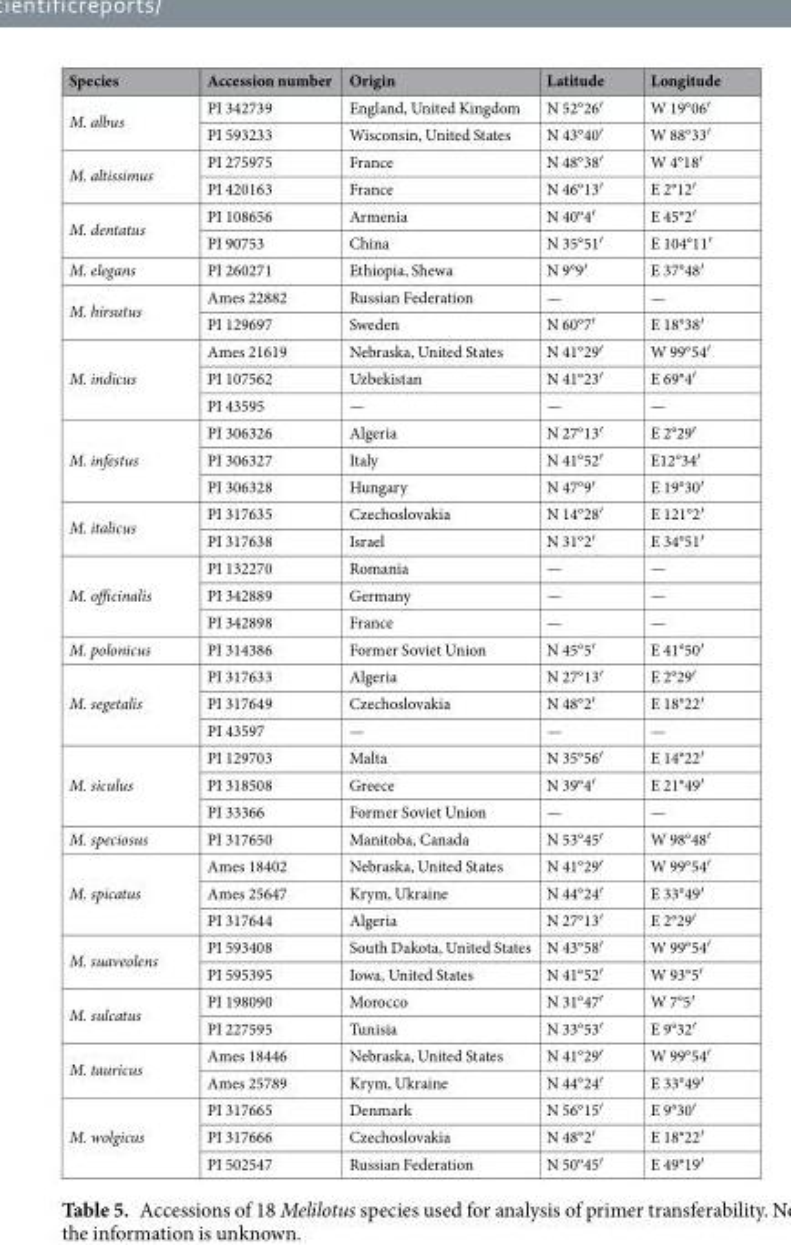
<table><thead><tr><td>Species</td><td>Accession number</td><td>Origin</td><td>Latitude</td><td>Longitude</td></tr></thead><tbody><tr><td rowspan="2">M. albus</td><td>PI 342739</td><td>England, United Kingdom</td><td>N 52°26′</td><td>W 19°06′</td></tr><tr><td>PI 593233</td><td>Wisconsin, United States</td><td>N 43°40′</td><td>W 88°33′</td></tr><tr><td rowspan="2">M. altissimus</td><td>PI 275975</td><td>France</td><td>N 48°38′</td><td>W 4°18′</td></tr><tr><td>PI 420163</td><td>France</td><td>N 46°13′</td><td>E 2°12′</td></tr><tr><td rowspan="2">M. dentatus</td><td>PI 108656</td><td>Armenia</td><td>N 40°4′</td><td>E 45°2′</td></tr><tr><td>PI 90753</td><td>China</td><td>N 35°51′</td><td>E 104°11′</td></tr><tr><td>M. elegans</td><td>PI 260271</td><td>Ethiopia, Shewa</td><td>N 9°9′</td><td>E 37°48′</td></tr><tr><td rowspan="2">M. hirsutus</td><td>Ames 22882</td><td>Russian Federation</td><td>—</td><td>—</td></tr><tr><td>PI 129697</td><td>Sweden</td><td>N 60°7′</td><td>E 18°38′</td></tr><tr><td rowspan="3">M. indicus</td><td>Ames 21619</td><td>Nebraska, United States</td><td>N 41°29′</td><td>W 99°54′</td></tr><tr><td>PI 107562</td><td>Uzbekistan</td><td>N 41°23′</td><td>E 69°4′</td></tr><tr><td>PI 43595</td><td>—</td><td>—</td><td>—</td></tr><tr><td rowspan="3">M. infestus</td><td>PI 306326</td><td>Algeria</td><td>N 27°13′</td><td>E 2°29′</td></tr><tr><td>PI 306327</td><td>Italy</td><td>N 41°52′</td><td>E12°34′</td></tr><tr><td>PI 306328</td><td>Hungary</td><td>N 47°9′</td><td>E 19°30′</td></tr><tr><td rowspan="2">M. italicus</td><td>PI 317635</td><td>Czechoslovakia</td><td>N 14°28′</td><td>E 121°2′</td></tr><tr><td>PI 317638</td><td>Israel</td><td>N 31°2′</td><td>E 34°51′</td></tr><tr><td rowspan="3">M. officinalis</td><td>PI 132270</td><td>Romania</td><td>—</td><td>—</td></tr><tr><td>PI 342889</td><td>Germany</td><td>—</td><td>—</td></tr><tr><td>PI 342898</td><td>France</td><td>—</td><td>—</td></tr><tr><td>M. polonicus</td><td>PI 314386</td><td>Former Soviet Union</td><td>N 45°5′</td><td>E 41°50′</td></tr><tr><td rowspan="3">M. segetalis</td><td>PI 317633</td><td>Algeria</td><td>N 27°13′</td><td>E 2°29′</td></tr><tr><td>PI 317649</td><td>Czechoslovakia</td><td>N 48°2′</td><td>E 18°22′</td></tr><tr><td>PI 43597</td><td>—</td><td>—</td><td>—</td></tr><tr><td rowspan="3">M. siculus</td><td>PI 129703</td><td>Malta</td><td>N 35°56′</td><td>E 14°22′</td></tr><tr><td>PI 318508</td><td>Greece</td><td>N 39°4′</td><td>E 21°49′</td></tr><tr><td>PI 33366</td><td>Former Soviet Union</td><td>—</td><td>—</td></tr><tr><td>M. speciosus</td><td>PI 317650</td><td>Manitoba, Canada</td><td>N 53°45′</td><td>W 98°48′</td></tr><tr><td rowspan="3">M. spicatus</td><td>Ames 18402</td><td>Nebraska, United States</td><td>N 41°29′</td><td>W 99°54′</td></tr><tr><td>Ames 25647</td><td>Krym, Ukraine</td><td>N 44°24′</td><td>E 33°49′</td></tr><tr><td>PI 317644</td><td>Algeria</td><td>N 27°13′</td><td>E 2°29′</td></tr><tr><td rowspan="2">M. suaveolens</td><td>PI 593408</td><td>South Dakota, United States</td><td>N 43°58′</td><td>W 99°54′</td></tr><tr><td>PI 595395</td><td>Iowa, United States</td><td>N 41°52′</td><td>W 93°5′</td></tr><tr><td rowspan="2">M. sulcatus</td><td>PI 198090</td><td>Morocco</td><td>N 31°47′</td><td>W 7°5′</td></tr><tr><td>PI 227595</td><td>Tunisia</td><td>N 33°53′</td><td>E 9°32′</td></tr><tr><td rowspan="2">M. tauricus</td><td>Ames 18446</td><td>Nebraska, United States</td><td>N 41°29′</td><td>W 99°54′</td></tr><tr><td>Ames 25789</td><td>Krym, Ukraine</td><td>N 44°24′</td><td>E 33°49′</td></tr><tr><td rowspan="3">M. wolgicus</td><td>PI 317665</td><td>Denmark</td><td>N 56°15′</td><td>E 9°30′</td></tr><tr><td>PI 317666</td><td>Czechoslovakia</td><td>N 48°2′</td><td>E 18°22′</td></tr><tr><td>PI 502547</td><td>Russian Federation</td><td>N 50°45′</td><td>E 49°19′</td></tr></tbody></table>